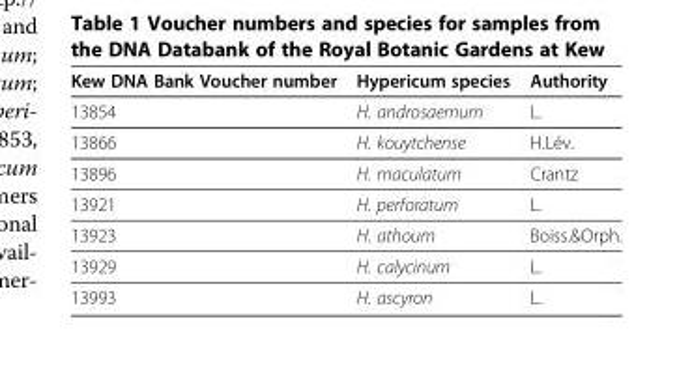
<table><thead><tr><td>Kew DNA Bank Voucher number</td><td>Hypericum species</td><td>Authority</td></tr></thead><tbody><tr><td>13854</td><td>H. androsaemum</td><td>L.</td></tr><tr><td>13866</td><td>H. kouytchense</td><td>H.Lév.</td></tr><tr><td>13896</td><td>H. maculatum</td><td>Crantz</td></tr><tr><td>13921</td><td>H. perforatum</td><td>L.</td></tr><tr><td>13923</td><td>H. athoum</td><td>Boiss.&amp;Orph.</td></tr><tr><td>13929</td><td>H. calycinum</td><td>L.</td></tr><tr><td>13993</td><td>H. ascyron</td><td>L.</td></tr></tbody></table>